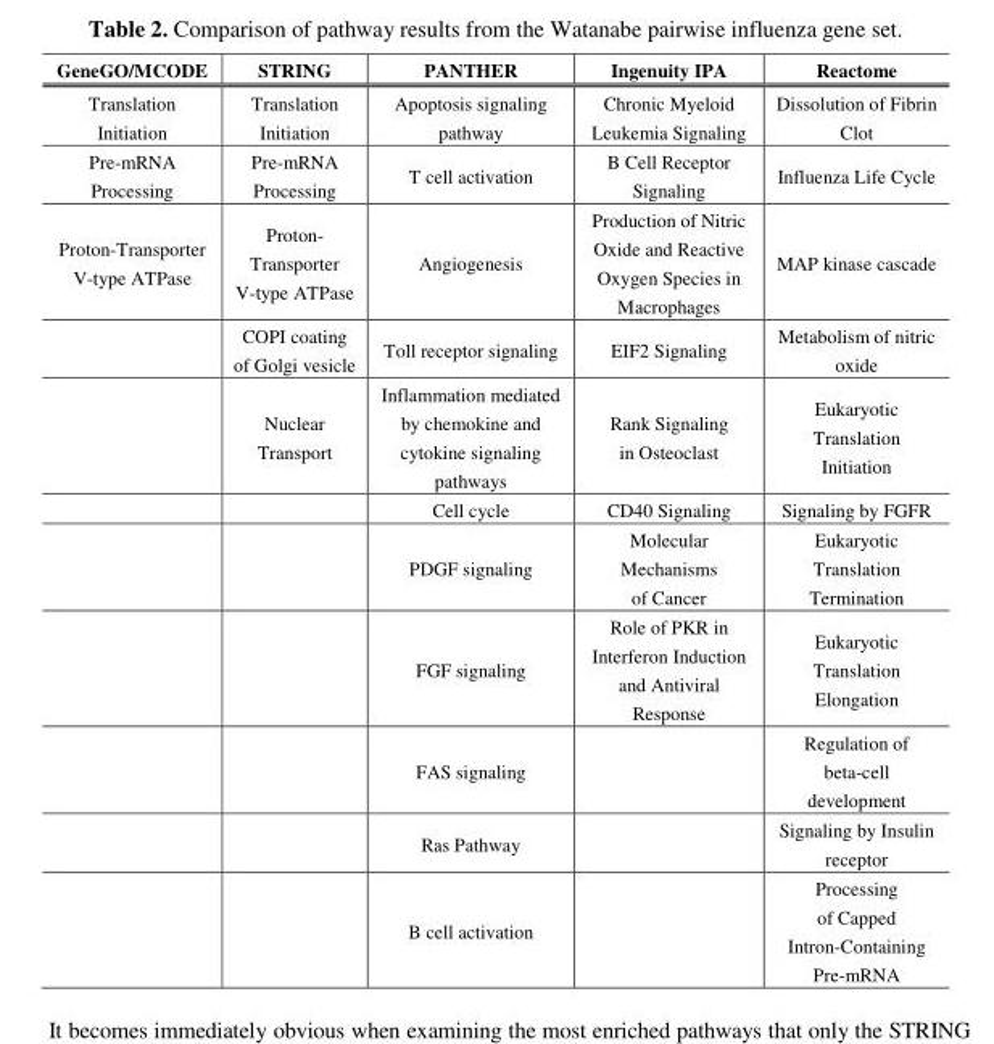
<table><thead><tr><td>GeneGO/MCODE</td><td>STRING</td><td>PANTHER</td><td>Ingenuity IPA</td><td>Reactome</td></tr></thead><tbody><tr><td>Translation Initiation</td><td>Translation Initiation</td><td>Apoptosis signaling pathway</td><td>Chronic Myeloid Leukemia Signaling</td><td>Dissolution of Fibrin Clot</td></tr><tr><td>Pre-mRNA Processing</td><td>Pre-mRNA Processing</td><td>T cell activation</td><td>B Cell Receptor Signaling</td><td>Influenza Life Cycle</td></tr><tr><td rowspan="9">Proton-Transporter V-type ATPase</td><td>Proton- Transporter V-type ATPase</td><td>Angiogenesis</td><td>Production of Nitric Oxide and Reactive Oxygen Species in Macrophages</td><td>MAP kinase cascade</td></tr><tr><td>COPI coating of Golgi vesicle</td><td>Toll receptor signaling</td><td>EIF2 Signaling</td><td>Metabolism of nitric oxide</td></tr><tr><td>Nuclear Transport</td><td>Inflammation mediated by chemokine and cytokine signaling pathways</td><td>Rank Signaling in Osteoclast</td><td>Eukaryotic Translation Initiation</td></tr><tr><td></td><td>Cell cycle</td><td>CD40 Signaling</td><td>Signaling by FGFR</td></tr><tr><td></td><td>PDGF signaling</td><td>Molecular Mechanisms of Cancer</td><td>Eukaryotic Translation Termination</td></tr><tr><td></td><td>FGF signaling</td><td>Role of PKR in Interferon Induction and Antiviral Response</td><td>Eukaryotic Translation Elongation</td></tr><tr><td></td><td>FAS signaling</td><td></td><td>Regulation of beta-cell development</td></tr><tr><td></td><td>Ras Pathway</td><td></td><td>Signaling by Insulin receptor</td></tr><tr><td></td><td>B cell activation</td><td></td><td>Processing of Capped Intron-Containing Pre-mRNA</td></tr></tbody></table>